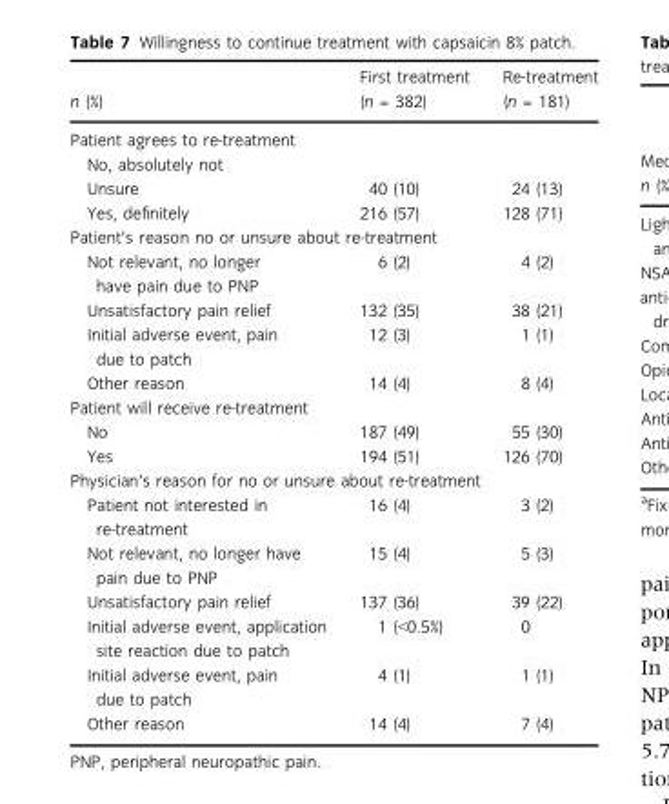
<table><thead><tr><td>n (%)</td><td>First treatment (n = 382)</td><td>Re-treatment (n = 181)</td></tr></thead><tbody><tr><td colspan="3">Patient agrees to re-treatment</td></tr><tr><td colspan="3">No, absolutely not</td></tr><tr><td>Unsure</td><td>40 (10)</td><td>24 (13)</td></tr><tr><td>Yes, definitely</td><td>216 (57)</td><td>128 (71)</td></tr><tr><td colspan="3">Patient’s reason no or unsure about re-treatment</td></tr><tr><td>Not relevant, no longer have pain due to PNP</td><td>6 (2)</td><td>4 (2)</td></tr><tr><td>Unsatisfactory pain relief</td><td>132 (35)</td><td>38 (21)</td></tr><tr><td>Initial adverse event, pain due to patch</td><td>12 (3)</td><td>1 (1)</td></tr><tr><td>Other reason</td><td>14 (4)</td><td>8 (4)</td></tr><tr><td colspan="3">Patient will receive re-treatment</td></tr><tr><td>No</td><td>187 (49)</td><td>55 (30)</td></tr><tr><td>Yes</td><td>194 (51)</td><td>126 (70)</td></tr><tr><td colspan="3">Physician’s reason for no or unsure about re-treatment</td></tr><tr><td>Patient not interested in re-treatment</td><td>16 (4)</td><td>3 (2)</td></tr><tr><td>Not relevant, no longer have pain due to PNP</td><td>15 (4)</td><td>5 (3)</td></tr><tr><td>Unsatisfactory pain relief</td><td>137 (36)</td><td>39 (22)</td></tr><tr><td>Initial adverse event, application site reaction due to patch</td><td>1 (˂0.5%)</td><td>0</td></tr><tr><td>Initial adverse event, pain due to patch</td><td>4 (1)</td><td>1 (1)</td></tr><tr><td>Other reason</td><td>14 (4)</td><td>7 (4)</td></tr></tbody></table>